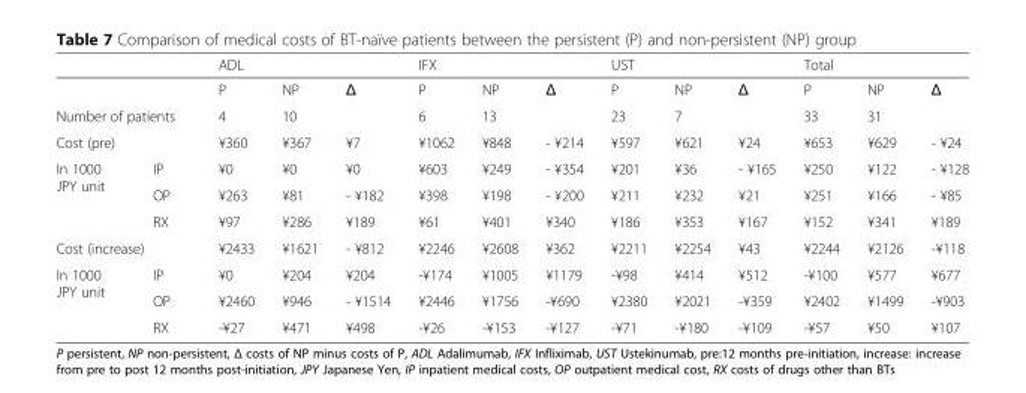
<table><thead><tr><td></td><td></td><td colspan="3">ADL</td><td colspan="3">IFX</td><td colspan="3">UST</td><td colspan="3">Total</td></tr><tr><td colspan="2"></td><td>P</td><td>NP</td><td>Δ</td><td>P</td><td>NP</td><td>Δ</td><td>P</td><td>NP</td><td>Δ</td><td>P</td><td>NP</td><td>Δ</td></tr></thead><tbody><tr><td colspan="2">Number of patients</td><td>4</td><td>10</td><td></td><td>6</td><td>13</td><td></td><td>23</td><td>7</td><td></td><td>33</td><td>31</td><td></td></tr><tr><td colspan="2">Cost (pre)</td><td>¥360</td><td>¥367</td><td>¥7</td><td>¥1062</td><td>¥848</td><td>- ¥214</td><td>¥597</td><td>¥621</td><td>¥24</td><td>¥653</td><td>¥629</td><td>- ¥24</td></tr><tr><td rowspan="3">In 1000 JPY unit</td><td>IP</td><td>¥0</td><td>¥0</td><td>¥0</td><td>¥603</td><td>¥249</td><td>- ¥354</td><td>¥201</td><td>¥36</td><td>- ¥165</td><td>¥250</td><td>¥122</td><td>- ¥128</td></tr><tr><td>OP</td><td>¥263</td><td>¥81</td><td>- ¥182</td><td>¥398</td><td>¥198</td><td>- ¥200</td><td>¥211</td><td>¥232</td><td>¥21</td><td>¥251</td><td>¥166</td><td>- ¥85</td></tr><tr><td>RX</td><td>¥97</td><td>¥286</td><td>¥189</td><td>¥61</td><td>¥401</td><td>¥340</td><td>¥186</td><td>¥353</td><td>¥167</td><td>¥152</td><td>¥341</td><td>¥189</td></tr><tr><td colspan="2">Cost (increase)</td><td>¥2433</td><td>¥1621</td><td>- ¥812</td><td>¥2246</td><td>¥2608</td><td>¥362</td><td>¥2211</td><td>¥2254</td><td>¥43</td><td>¥2244</td><td>¥2126</td><td>-¥118</td></tr><tr><td rowspan="3">In 1000 JPY unit</td><td>IP</td><td>¥0</td><td>¥204</td><td>¥204</td><td>-¥174</td><td>¥1005</td><td>¥1179</td><td>-¥98</td><td>¥414</td><td>¥512</td><td>-¥100</td><td>¥577</td><td>¥677</td></tr><tr><td>OP</td><td>¥2460</td><td>¥946</td><td>- ¥1514</td><td>¥2446</td><td>¥1756</td><td>-¥690</td><td>¥2380</td><td>¥2021</td><td>-¥359</td><td>¥2402</td><td>¥1499</td><td>-¥903</td></tr><tr><td>RX</td><td>-¥27</td><td>¥471</td><td>¥498</td><td>-¥26</td><td>-¥153</td><td>-¥127</td><td>-¥71</td><td>-¥180</td><td>-¥109</td><td>-¥57</td><td>¥50</td><td>¥107</td></tr></tbody></table>